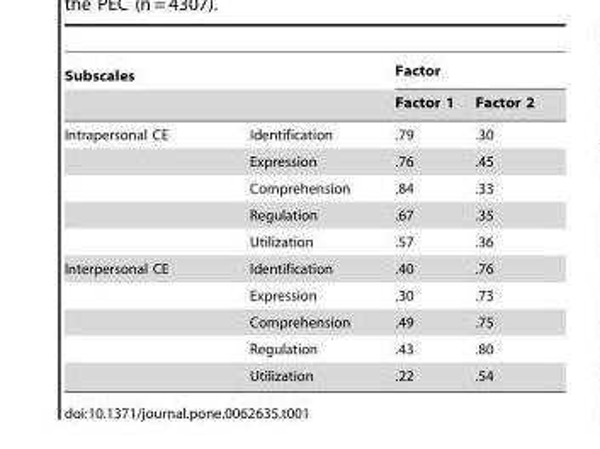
<table><thead><tr><td colspan="2">Subscales</td><td colspan="2">Factor</td></tr><tr><td></td><td></td><td>Factor 1</td><td>Factor 2</td></tr></thead><tbody><tr><td rowspan="5">Intrapersonal CE</td><td>Identification</td><td>.79</td><td>.30</td></tr><tr><td>Expression</td><td>.76</td><td>.45</td></tr><tr><td>Comprehension</td><td>.84</td><td>.33</td></tr><tr><td>Regulation</td><td>.67</td><td>.35</td></tr><tr><td>Utilization</td><td>.57</td><td>.36</td></tr><tr><td rowspan="5">Interpersonal CE</td><td>Identification</td><td>.40</td><td>.76</td></tr><tr><td>Expression</td><td>.30</td><td>.73</td></tr><tr><td>Comprehension</td><td>.49</td><td>.75</td></tr><tr><td>Regulation</td><td>.43</td><td>.80</td></tr><tr><td>Utilization</td><td>.22</td><td>.54</td></tr></tbody></table>